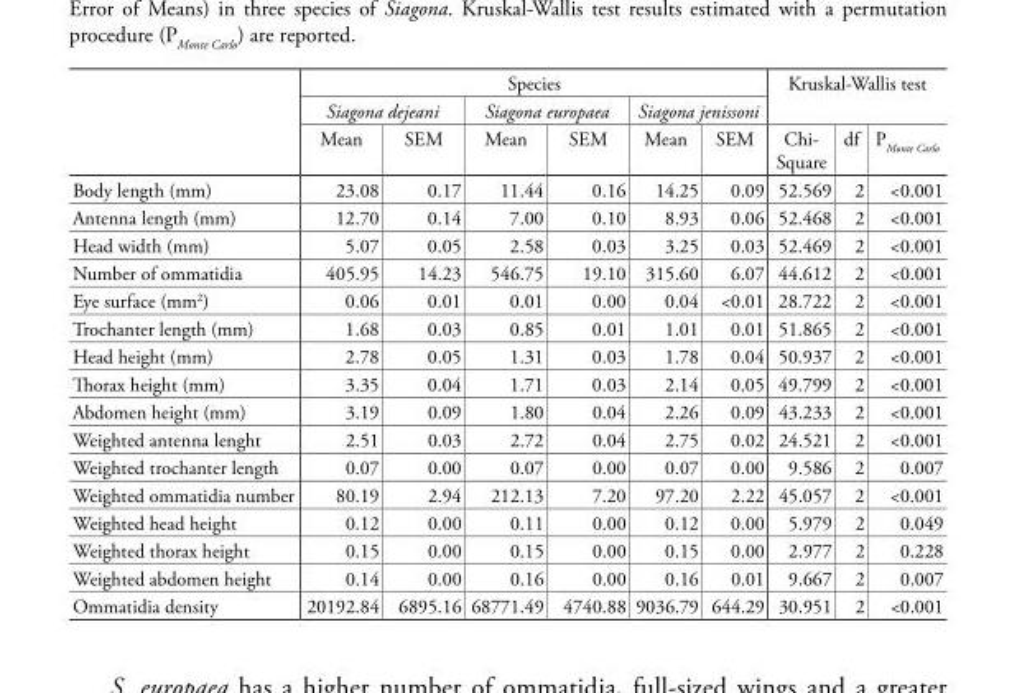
<table><thead><tr><td rowspan="3"></td><td colspan="6">Species</td><td rowspan="2" colspan="3">Kruskal-Wallis test</td></tr><tr><td colspan="2">Siagona dejeani</td><td colspan="2">Siagona europaea</td><td colspan="2">Siagona jenissoni</td></tr><tr><td>Mean</td><td>SEM</td><td>Mean</td><td>SEM</td><td>Mean</td><td>SEM</td><td>Chi- Square</td><td>df</td><td>PMonte Carlo</td></tr></thead><tbody><tr><td>Body length (mm)</td><td>23.08</td><td>0.17</td><td>11.44</td><td>0.16</td><td>14.25</td><td>0.09</td><td>52.569</td><td>2</td><td>&lt;0.001</td></tr><tr><td>Antenna length (mm)</td><td>12.70</td><td>0.14</td><td>7.00</td><td>0.10</td><td>8.93</td><td>0.06</td><td>52.468</td><td>2</td><td>&lt;0.001</td></tr><tr><td>Head width (mm)</td><td>5.07</td><td>0.05</td><td>2.58</td><td>0.03</td><td>3.25</td><td>0.03</td><td>52.469</td><td>2</td><td>&lt;0.001</td></tr><tr><td>Number of ommatidia</td><td>405.95</td><td>14.23</td><td>546.75</td><td>19.10</td><td>315.60</td><td>6.07</td><td>44.612</td><td>2</td><td>&lt;0.001</td></tr><tr><td>Eye surface (mm2)</td><td>0.06</td><td>0.01</td><td>0.01</td><td>0.00</td><td>0.04</td><td>&lt;0.01</td><td>28.722</td><td>2</td><td>&lt;0.001</td></tr><tr><td>Trochanter length (mm)</td><td>1.68</td><td>0.03</td><td>0.85</td><td>0.01</td><td>1.01</td><td>0.01</td><td>51.865</td><td>2</td><td>&lt;0.001</td></tr><tr><td>Head height (mm)</td><td>2.78</td><td>0.05</td><td>1.31</td><td>0.03</td><td>1.78</td><td>0.04</td><td>50.937</td><td>2</td><td>&lt;0.001</td></tr><tr><td>Thorax height (mm)</td><td>3.35</td><td>0.04</td><td>1.71</td><td>0.03</td><td>2.14</td><td>0.05</td><td>49.799</td><td>2</td><td>&lt;0.001</td></tr><tr><td>Abdomen height (mm)</td><td>3.19</td><td>0.09</td><td>1.80</td><td>0.04</td><td>2.26</td><td>0.09</td><td>43.233</td><td>2</td><td>&lt;0.001</td></tr><tr><td>Weighted antenna lenght</td><td>2.51</td><td>0.03</td><td>2.72</td><td>0.04</td><td>2.75</td><td>0.02</td><td>24.521</td><td>2</td><td>&lt;0.001</td></tr><tr><td>Weighted trochanter length</td><td>0.07</td><td>0.00</td><td>0.07</td><td>0.00</td><td>0.07</td><td>0.00</td><td>9.586</td><td>2</td><td>0.007</td></tr><tr><td>Weighted ommatidia number</td><td>80.19</td><td>2.94</td><td>212.13</td><td>7.20</td><td>97.20</td><td>2.22</td><td>45.057</td><td>2</td><td>&lt;0.001</td></tr><tr><td>Weighted head height</td><td>0.12</td><td>0.00</td><td>0.11</td><td>0.00</td><td>0.12</td><td>0.00</td><td>5.979</td><td>2</td><td>0.049</td></tr><tr><td>Weighted thorax height</td><td>0.15</td><td>0.00</td><td>0.15</td><td>0.00</td><td>0.15</td><td>0.00</td><td>2.977</td><td>2</td><td>0.228</td></tr><tr><td>Weighted abdomen height</td><td>0.14</td><td>0.00</td><td>0.16</td><td>0.00</td><td>0.16</td><td>0.01</td><td>9.667</td><td>2</td><td>0.007</td></tr><tr><td>Ommatidia density</td><td>20192.84</td><td>6895.16</td><td>68771.49</td><td>4740.88</td><td>9036.79</td><td>644.29</td><td>30.951</td><td>2</td><td>&lt;0.001</td></tr></tbody></table>